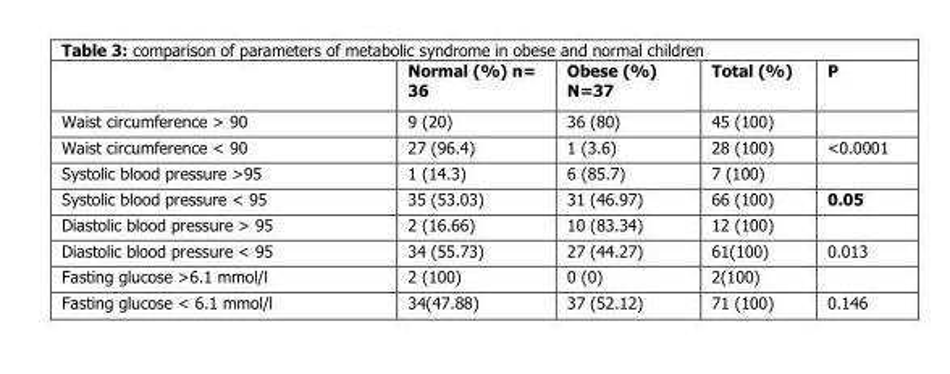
<table><thead><tr><td></td><td>Normal (%) n= 36</td><td>Obese (%) N=37</td><td>Total (%)</td><td>P</td></tr></thead><tbody><tr><td>Waist circumference &gt; 90</td><td>9 (20)</td><td>36 (80)</td><td>45 (100)</td><td></td></tr><tr><td>Waist circumference &lt; 90</td><td>27 (96.4)</td><td>1 (3.6)</td><td>28 (100)</td><td>&lt;0.0001</td></tr><tr><td>Systolic blood pressure &gt;95</td><td>1 (14.3)</td><td>6 (85.7)</td><td>7 (100)</td><td></td></tr><tr><td>Systolic blood pressure &lt; 95</td><td>35 (53.03)</td><td>31 (46.97)</td><td>66 (100)</td><td>0.05</td></tr><tr><td>Diastolic blood pressure &gt; 95</td><td>2 (16.66)</td><td>10 (83.34)</td><td>12 (100)</td><td></td></tr><tr><td>Diastolic blood pressure &lt; 95</td><td>34 (55.73)</td><td>27 (44.27)</td><td>61(100)</td><td>0.013</td></tr><tr><td>Fasting glucose &gt;6.1 mmol/l</td><td>2 (100)</td><td>0 (0)</td><td>2(100)</td><td></td></tr><tr><td>Fasting glucose &lt; 6.1 mmol/l</td><td>34(47.88)</td><td>37 (52.12)</td><td>71 (100)</td><td>0.146</td></tr></tbody></table>